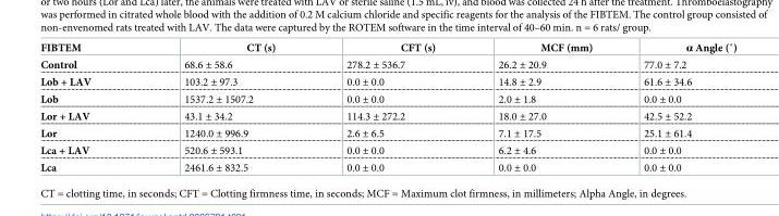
<table><thead><tr><td>FIBTEM</td><td>CT (s)</td><td>CFT (s)</td><td>MCF (mm)</td><td>α Angle (˚)</td></tr></thead><tbody><tr><td>Control</td><td>68.6 ± 58.6</td><td>278.2 ± 536.7</td><td>26.2 ± 20.9</td><td>77.0 ± 7.2</td></tr><tr><td>Lob + LAV</td><td>103.2 ± 97.3</td><td>0.0 ± 0.0</td><td>14.8 ± 2.9</td><td>61.6 ± 34.6</td></tr><tr><td>Lob</td><td>1537.2 ± 1507.2</td><td>0.0 ± 0.0</td><td>2.0 ± 1.8</td><td>0.0 ± 0.0</td></tr><tr><td>Lor + LAV</td><td>43.1 ± 34.2</td><td>114.3 ± 272.2</td><td>18.0 ± 27.0</td><td>42.5 ± 52.2</td></tr><tr><td>Lor</td><td>1240.0 ± 996.9</td><td>2.6 ± 6.5</td><td>7.1 ± 17.5</td><td>25.1 ± 61.4</td></tr><tr><td>Lca + LAV</td><td>520.6 ± 593.1</td><td>0.0 ± 0.0</td><td>6.2 ± 4.6</td><td>0.0 ± 0.0</td></tr><tr><td>Lca</td><td>2461.6 ± 832.5</td><td>0.0 ± 0.0</td><td>0.0 ± 0.0</td><td>0.0 ± 0.0</td></tr></tbody></table>